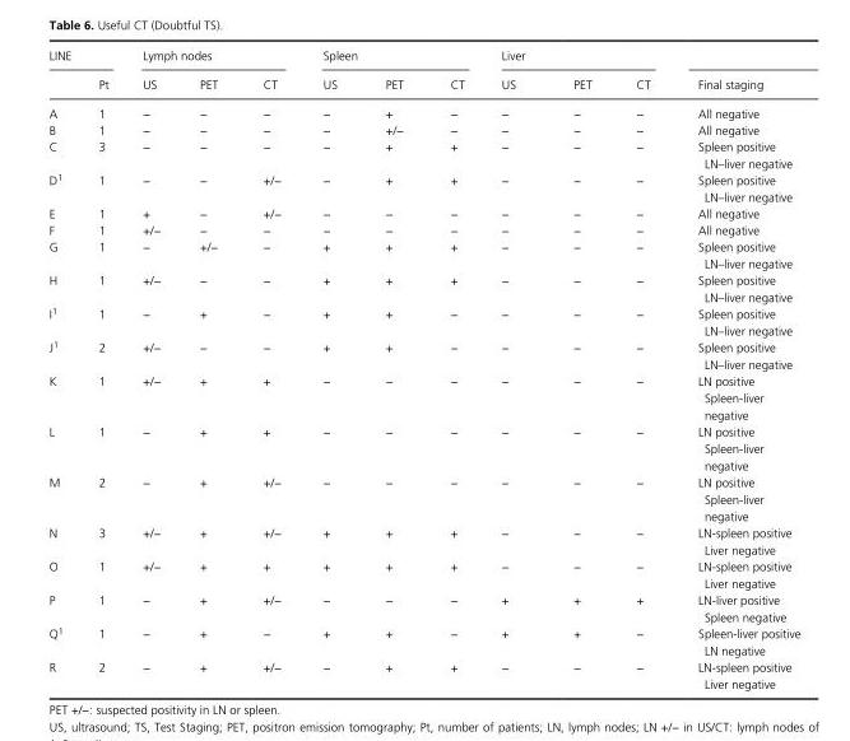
<table><thead><tr><td rowspan="2">LINE</td><td rowspan="2">Pt</td><td colspan="3">Lymph nodes</td><td colspan="3">Spleen</td><td colspan="3">Liver</td><td rowspan="2">Final staging</td></tr><tr><td>US</td><td>PET</td><td>CT</td><td>US</td><td>PET</td><td>CT</td><td>US</td><td>PET</td><td>CT</td></tr></thead><tbody><tr><td>A</td><td>1</td><td>−</td><td>−</td><td>−</td><td>−</td><td>+</td><td>−</td><td>−</td><td>−</td><td>−</td><td>All negative</td></tr><tr><td>B</td><td>1</td><td>−</td><td>−</td><td>−</td><td>−</td><td>+/−</td><td>−</td><td>−</td><td>−</td><td>−</td><td>All negative</td></tr><tr><td>C</td><td>3</td><td>−</td><td>−</td><td>−</td><td>−</td><td>+</td><td>+</td><td>−</td><td>−</td><td>−</td><td>Spleen positive LN–liver negative</td></tr><tr><td>D1</td><td>1</td><td>−</td><td>−</td><td>+/−</td><td>−</td><td>+</td><td>+</td><td>−</td><td>−</td><td>−</td><td>Spleen positive LN–liver negative</td></tr><tr><td>E</td><td>1</td><td>+</td><td>−</td><td>+/−</td><td>−</td><td>−</td><td>−</td><td>−</td><td>−</td><td>−</td><td>All negative</td></tr><tr><td>F</td><td>1</td><td>+/−</td><td>−</td><td>−</td><td>−</td><td>−</td><td>−</td><td>−</td><td>−</td><td>−</td><td>All negative</td></tr><tr><td>G</td><td>1</td><td>−</td><td>+/−</td><td>−</td><td>+</td><td>+</td><td>+</td><td>−</td><td>−</td><td>−</td><td>Spleen positive LN–liver negative</td></tr><tr><td>H</td><td>1</td><td>+/−</td><td>−</td><td>−</td><td>+</td><td>+</td><td>+</td><td>−</td><td>−</td><td>−</td><td>Spleen positive LN–liver negative</td></tr><tr><td>I1</td><td>1</td><td>−</td><td>+</td><td>−</td><td>+</td><td>+</td><td>−</td><td>−</td><td>−</td><td>−</td><td>Spleen positive LN–liver negative</td></tr><tr><td>J1</td><td>2</td><td>+/−</td><td>−</td><td>−</td><td>+</td><td>+</td><td>−</td><td>−</td><td>−</td><td>−</td><td>Spleen positive LN–liver negative</td></tr><tr><td>K</td><td>1</td><td>+/−</td><td>+</td><td>+</td><td>−</td><td>−</td><td>−</td><td>−</td><td>−</td><td>−</td><td>LN positive Spleen- liver negative</td></tr><tr><td>L</td><td>1</td><td>−</td><td>+</td><td>+</td><td>−</td><td>−</td><td>−</td><td>−</td><td>−</td><td>−</td><td>LN positive Spleen- liver negative</td></tr><tr><td>M</td><td>2</td><td>−</td><td>+</td><td>+/−</td><td>−</td><td>−</td><td>−</td><td>−</td><td>−</td><td>−</td><td>LN positive Spleen- liver negative</td></tr><tr><td>N</td><td>3</td><td>+/−</td><td>+</td><td>+/−</td><td>+</td><td>+</td><td>+</td><td>−</td><td>−</td><td>−</td><td>LN- spleen positive Liver negative</td></tr><tr><td>O</td><td>1</td><td>+/−</td><td>+</td><td>+</td><td>+</td><td>+</td><td>+</td><td>−</td><td>−</td><td>−</td><td>LN- spleen positive Liver negative</td></tr><tr><td>P</td><td>1</td><td>−</td><td>+</td><td>+/−</td><td>−</td><td>−</td><td>−</td><td>+</td><td>+</td><td>+</td><td>LN- liver positive Spleen negative</td></tr><tr><td>Q1</td><td>1</td><td>−</td><td>+</td><td>−</td><td>+</td><td>+</td><td>−</td><td>+</td><td>+</td><td>−</td><td>Spleen- liver positive LN negative</td></tr><tr><td>R</td><td>2</td><td>−</td><td>+</td><td>+/−</td><td>−</td><td>+</td><td>+</td><td>−</td><td>−</td><td>−</td><td>LN- spleen positive Liver negative</td></tr></tbody></table>